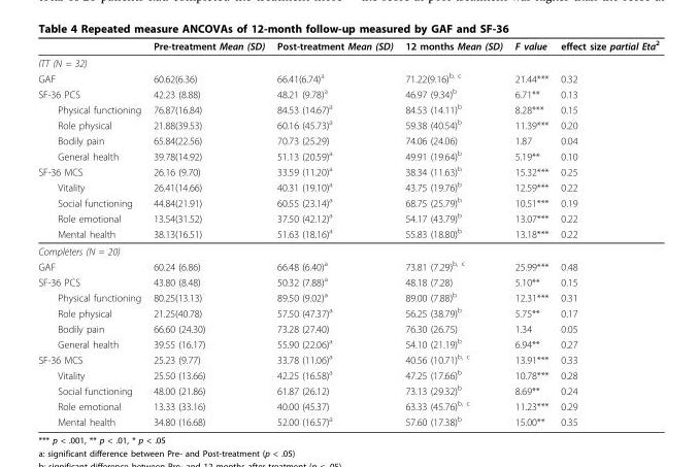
<table><thead><tr><td></td><td>Pre-treatment Mean (SD)</td><td>Post-treatment Mean (SD)</td><td>12 months Mean (SD)</td><td>F value</td><td>effect size partial Eta<sup>2</sup></td></tr></thead><tbody><tr><td colspan="6">ITT (N = 32)</td></tr><tr><td>GAF</td><td>60.62(6.36)</td><td>66.41(6.74)<sup>a</sup></td><td>71.22(9.16)<sup>b, c</sup></td><td>21.44***</td><td>0.32</td></tr><tr><td>SF-36 PCS</td><td>42.23 (8.88)</td><td>48.21 (9.78)<sup>a</sup></td><td>46.97 (9.34)<sup>b</sup></td><td>6.71**</td><td>0.13</td></tr><tr><td>Physical functioning</td><td>76.87(16.84)</td><td>84.53 (14.67)<sup>a</sup></td><td>84.53 (14.11)<sup>b</sup></td><td>8.28***</td><td>0.15</td></tr><tr><td>Role physical</td><td>21.88(39.53)</td><td>60.16 (45.73)<sup>a</sup></td><td>59.38 (40.54)<sup>b</sup></td><td>11.39***</td><td>0.20</td></tr><tr><td>Bodily pain</td><td>65.84(22.56)</td><td>70.73 (25.29)</td><td>74.06 (24.06)</td><td>1.87</td><td>0.04</td></tr><tr><td>General health</td><td>39.78(14.92)</td><td>51.13 (20.59)<sup>a</sup></td><td>49.91 (19.64)<sup>b</sup></td><td>5.19**</td><td>0.10</td></tr><tr><td>SF-36 MCS</td><td>26.16 (9.70)</td><td>33.59 (11.20)<sup>a</sup></td><td>38.34 (11.63)<sup>b</sup></td><td>15.32***</td><td>0.25</td></tr><tr><td>Vitality</td><td>26.41(14.66)</td><td>40.31 (19.10)<sup>a</sup></td><td>43.75 (19.76)<sup>b</sup></td><td>12.59***</td><td>0.22</td></tr><tr><td>Social functioning</td><td>44.84(21.91)</td><td>60.55 (23.14)<sup>a</sup></td><td>68.75 (25.79)<sup>b</sup></td><td>10.51***</td><td>0.19</td></tr><tr><td>Role emotional</td><td>13.54(31.52)</td><td>37.50 (42.12)<sup>a</sup></td><td>54.17 (43.79)<sup>b</sup></td><td>13.07***</td><td>0.22</td></tr><tr><td>Mental health</td><td>38.13(16.51)</td><td>51.63 (18.16)<sup>a</sup></td><td>55.83 (18.80)<sup>b</sup></td><td>13.18***</td><td>0.22</td></tr><tr><td colspan="6">Completers (N = 20)</td></tr><tr><td>GAF</td><td>60.24 (6.86)</td><td>66.48 (6.40)<sup>a</sup></td><td>73.81 (7.29)<sup>b, c</sup></td><td>25.99***</td><td>0.48</td></tr><tr><td>SF-36 PCS</td><td>43.80 (8.48)</td><td>50.32 (7.88)<sup>a</sup></td><td>48.18 (7.28)</td><td>5.10**</td><td>0.15</td></tr><tr><td>Physical functioning</td><td>80.25(13.13)</td><td>89.50 (9.02)<sup>a</sup></td><td>89.00 (7.88)<sup>b</sup></td><td>12.31***</td><td>0.31</td></tr><tr><td>Role physical</td><td>21.25(40.78)</td><td>57.50 (47.37)<sup>a</sup></td><td>56.25 (38.79)<sup>b</sup></td><td>5.75**</td><td>0.17</td></tr><tr><td>Bodily pain</td><td>66.60 (24.30)</td><td>73.28 (27.40)</td><td>76.30 (26.75)</td><td>1.34</td><td>0.05</td></tr><tr><td>General health</td><td>39.55 (16.17)</td><td>55.90 (22.06)<sup>a</sup></td><td>54.10 (21.19)<sup>b</sup></td><td>6.94**</td><td>0.27</td></tr><tr><td>SF-36 MCS</td><td>25.23 (9.77)</td><td>33.78 (11.06)<sup>a</sup></td><td>40.56 (10.71)<sup>b, c</sup></td><td>13.91***</td><td>0.33</td></tr><tr><td>Vitality</td><td>25.50 (13.66)</td><td>42.25 (16.58)<sup>a</sup></td><td>47.25 (17.66)<sup>b</sup></td><td>10.78***</td><td>0.28</td></tr><tr><td>Social functioning</td><td>48.00 (21.86)</td><td>61.87 (26.12)</td><td>73.13 (29.32)<sup>b</sup></td><td>8.69**</td><td>0.24</td></tr><tr><td>Role emotional</td><td>13.33 (33.16)</td><td>40.00 (45.37)</td><td>63.33 (45.76)<sup>b, c</sup></td><td>11.23***</td><td>0.29</td></tr><tr><td>Mental health</td><td>34.80 (16.68)</td><td>52.00 (16.57)<sup>a</sup></td><td>57.60 (17.38)<sup>b</sup></td><td>15.00**</td><td>0.35</td></tr></tbody></table>